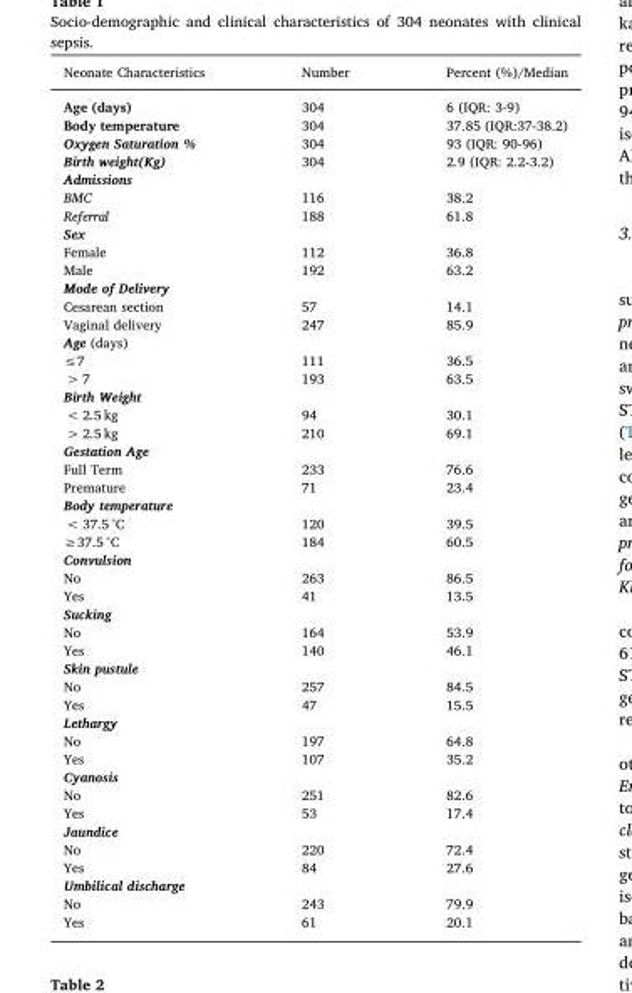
<table><thead><tr><td>Neonate Characteristics</td><td>Number</td><td>Percent (%)/Median</td></tr></thead><tbody><tr><td>Age (days)</td><td>304</td><td>6 (IQR: 3-9)</td></tr><tr><td>Body temperature</td><td>304</td><td>37.85 (IQR:37-38.2)</td></tr><tr><td>Oxygen Saturation %</td><td>304</td><td>93 (IQR: 90-96)</td></tr><tr><td>Birth weight(Kg)</td><td>304</td><td>2.9 (IQR: 2.2-3.2)</td></tr><tr><td colspan="3">Admissions</td></tr><tr><td>BMC</td><td>116</td><td>38.2</td></tr><tr><td>Referral</td><td>188</td><td>61.8</td></tr><tr><td colspan="3">Sex</td></tr><tr><td>Female</td><td>112</td><td>36.8</td></tr><tr><td>Male</td><td>192</td><td>63.2</td></tr><tr><td colspan="3">Mode of Delivery</td></tr><tr><td>Cesarean section</td><td>57</td><td>14.1</td></tr><tr><td>Vaginal delivery</td><td>247</td><td>85.9</td></tr><tr><td colspan="3">Age (days)</td></tr><tr><td>≤7</td><td>111</td><td>36.5</td></tr><tr><td>&gt; 7</td><td>193</td><td>63.5</td></tr><tr><td colspan="3">Birth Weight</td></tr><tr><td>&lt; 2.5 kg</td><td>94</td><td>30.1</td></tr><tr><td>&gt; 2.5 kg</td><td>210</td><td>69.1</td></tr><tr><td colspan="3">Gestation Age</td></tr><tr><td>Full Term</td><td>233</td><td>76.6</td></tr><tr><td>Premature</td><td>71</td><td>23.4</td></tr><tr><td colspan="3">Body temperature</td></tr><tr><td>&lt; 37.5 °C</td><td>120</td><td>39.5</td></tr><tr><td>≥37.5 °C</td><td>184</td><td>60.5</td></tr><tr><td colspan="3">Convulsion</td></tr><tr><td>No</td><td>263</td><td>86.5</td></tr><tr><td>Yes</td><td>41</td><td>13.5</td></tr><tr><td colspan="3">Sucking</td></tr><tr><td>No</td><td>164</td><td>53.9</td></tr><tr><td>Yes</td><td>140</td><td>46.1</td></tr><tr><td colspan="3">Skin pustule</td></tr><tr><td>No</td><td>257</td><td>84.5</td></tr><tr><td>Yes</td><td>47</td><td>15.5</td></tr><tr><td colspan="3">Lethargy</td></tr><tr><td>No</td><td>197</td><td>64.8</td></tr><tr><td>Yes</td><td>107</td><td>35.2</td></tr><tr><td colspan="3">Cyanosis</td></tr><tr><td>No</td><td>251</td><td>82.6</td></tr><tr><td>Yes</td><td>53</td><td>17.4</td></tr><tr><td colspan="3">Jaundice</td></tr><tr><td>No</td><td>220</td><td>72.4</td></tr><tr><td>Yes</td><td>84</td><td>27.6</td></tr><tr><td colspan="3">Umbilical discharge</td></tr><tr><td>No</td><td>243</td><td>79.9</td></tr><tr><td>Yes</td><td>61</td><td>20.1</td></tr></tbody></table>